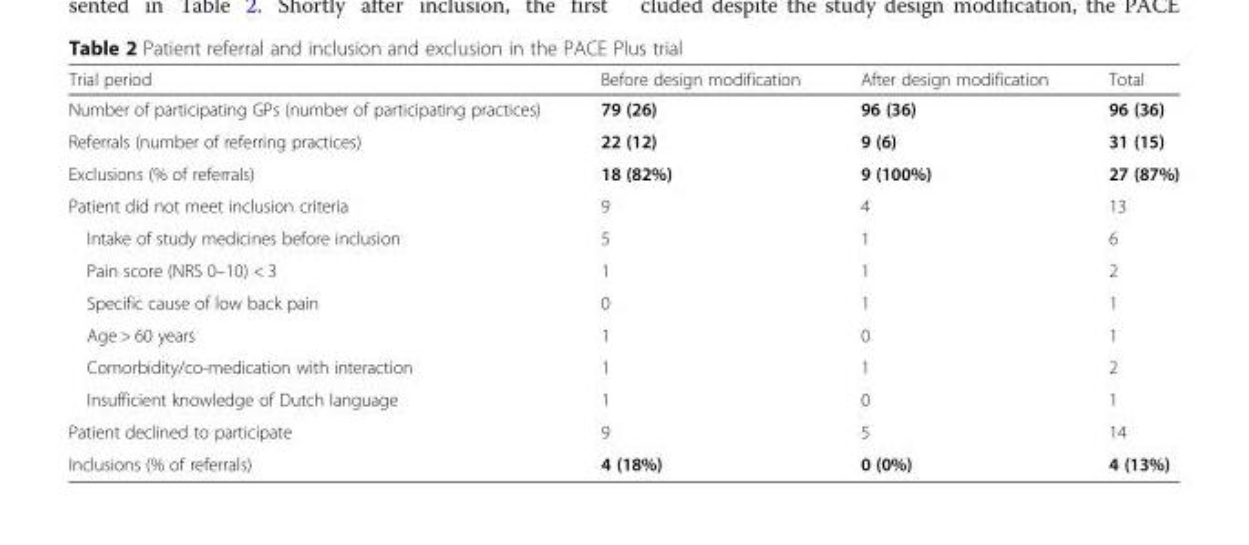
<table><thead><tr><td>Trial period</td><td>Before design modification</td><td>After design modification</td><td>Total</td></tr></thead><tbody><tr><td>Number of participating GPs (number of participating practices)</td><td>79 (26)</td><td>96 (36)</td><td>96 (36)</td></tr><tr><td>Referrals (number of referring practices)</td><td>22 (12)</td><td>9 (6)</td><td>31 (15)</td></tr><tr><td>Exclusions (% of referrals)</td><td>18 (82%)</td><td>9 (100%)</td><td>27 (87%)</td></tr><tr><td>Patient did not meet inclusion criteria</td><td>9</td><td>4</td><td>13</td></tr><tr><td>Intake of study medicines before inclusion</td><td>5</td><td>1</td><td>6</td></tr><tr><td>Pain score (NRS 0–10) &lt; 3</td><td>1</td><td>1</td><td>2</td></tr><tr><td>Specific cause of low back pain</td><td>0</td><td>1</td><td>1</td></tr><tr><td>Age &gt; 60 years</td><td>1</td><td>0</td><td>1</td></tr><tr><td>Comorbidity/co-medication with interaction</td><td>1</td><td>1</td><td>2</td></tr><tr><td>Insufficient knowledge of Dutch language</td><td>1</td><td>0</td><td>1</td></tr><tr><td>Patient declined to participate</td><td>9</td><td>5</td><td>14</td></tr><tr><td>Inclusions (% of referrals)</td><td>4 (18%)</td><td>0 (0%)</td><td>4 (13%)</td></tr></tbody></table>